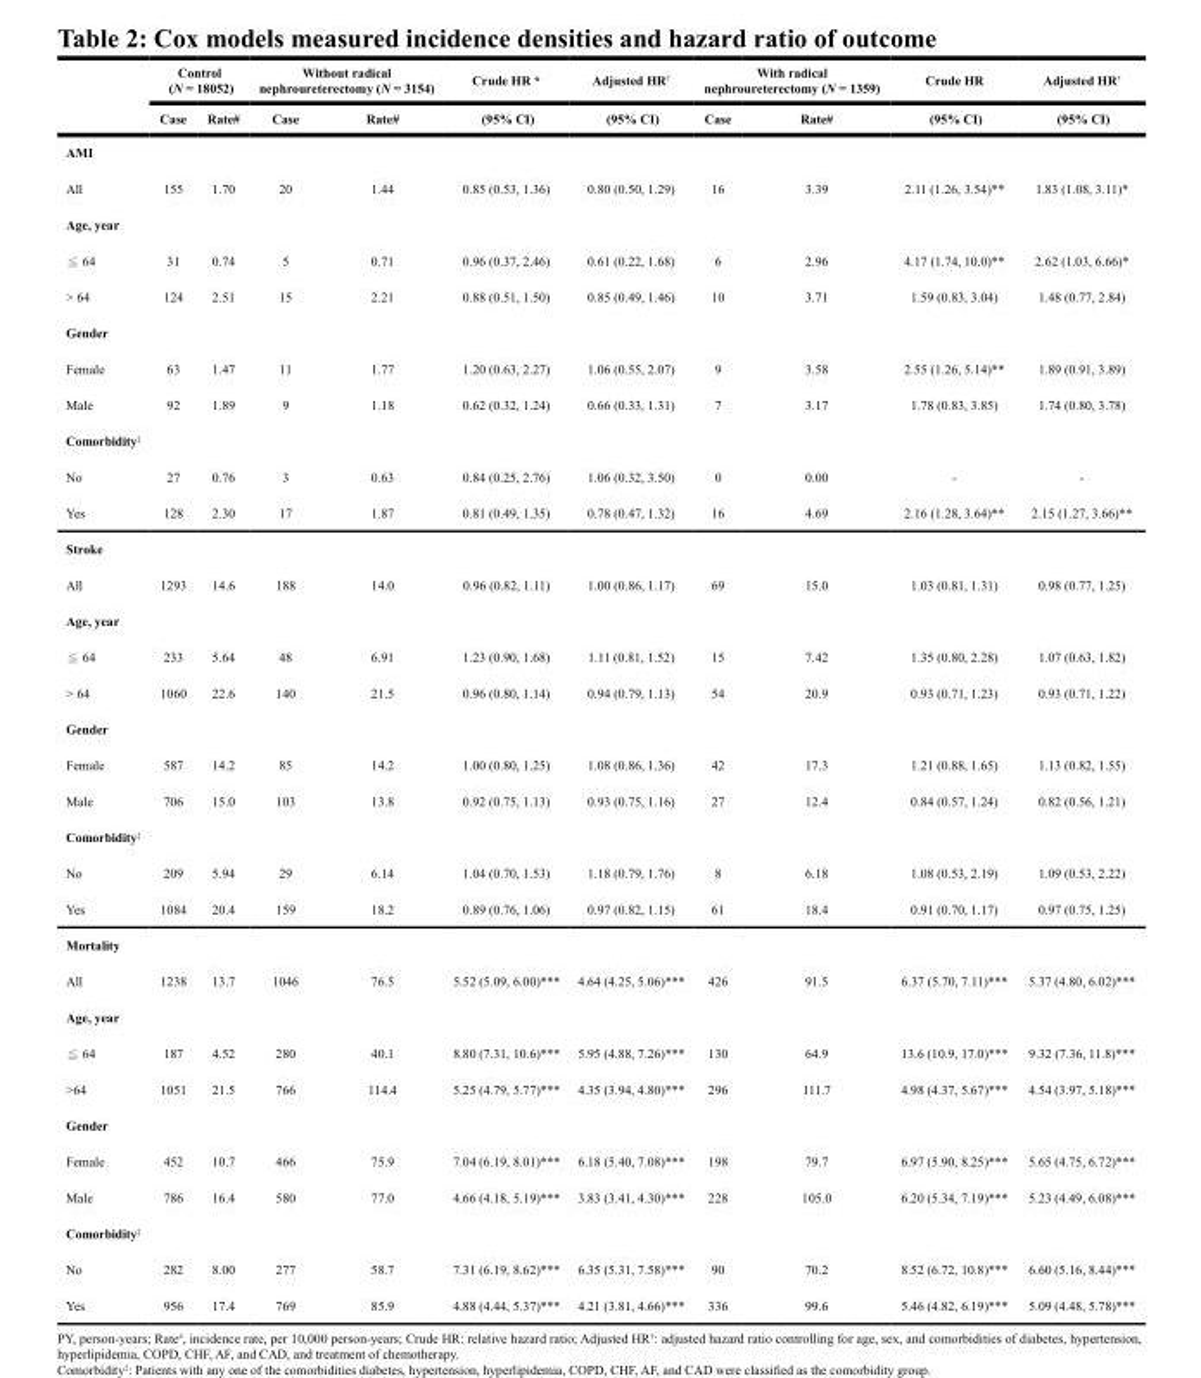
<table><thead><tr><td rowspan="2"></td><td colspan="2">Control (N = 18052)</td><td colspan="2">Without radical nephroureterectomy (N = 3154)</td><td rowspan="2">Crude HR * (95% CI)</td><td rowspan="2">Adjusted HR<sup>†</sup> (95% CI)</td><td colspan="2">With radical nephroureterectomy (N = 1359)</td><td rowspan="2">Crude HR (95% CI)</td><td rowspan="2">Adjusted HR<sup>†</sup> (95% CI)</td></tr><tr><td>Case</td><td>Rate#</td><td>Case</td><td>Rate#</td><td>Case</td><td>Rate#</td></tr></thead><tbody><tr><td colspan="11">AMI</td></tr><tr><td>All</td><td>155</td><td>1.70</td><td>20</td><td>1.44</td><td>0.85 (0.53, 1.36)</td><td>0.80 (0.50, 1.29)</td><td>16</td><td>3.39</td><td>2.11 (1.26, 3.54)**</td><td>1.83 (1.08, 3.11)*</td></tr><tr><td colspan="11">Age, year</td></tr><tr><td>≦ 64</td><td>31</td><td>0.74</td><td>5</td><td>0.71</td><td>0.96 (0.37, 2.46)</td><td>0.61 (0.22, 1.68)</td><td>6</td><td>2.96</td><td>4.17 (1.74, 10.0)**</td><td>2.62 (1.03, 6.66)*</td></tr><tr><td>&gt; 64</td><td>124</td><td>2.51</td><td>15</td><td>2.21</td><td>0.88 (0.51, 1.50)</td><td>0.85 (0.49, 1.46)</td><td>10</td><td>3.71</td><td>1.59 (0.83, 3.04)</td><td>1.48 (0.77, 2.84)</td></tr><tr><td colspan="11">Gender</td></tr><tr><td>Female</td><td>63</td><td>1.47</td><td>11</td><td>1.77</td><td>1.20 (0.63, 2.27)</td><td>1.06 (0.55, 2.07)</td><td>9</td><td>3.58</td><td>2.55 (1.26, 5.14)**</td><td>1.89 (0.91, 3.89)</td></tr><tr><td>Male</td><td>92</td><td>1.89</td><td>9</td><td>1.18</td><td>0.62 (0.32, 1.24)</td><td>0.66 (0.33, 1.31)</td><td>7</td><td>3.17</td><td>1.78 (0.83, 3.85)</td><td>1.74 (0.80, 3.78)</td></tr><tr><td colspan="11">Comorbidity<sup>‡</sup></td></tr><tr><td>No</td><td>27</td><td>0.76</td><td>3</td><td>0.63</td><td>0.84 (0.25, 2.76)</td><td>1.06 (0.32, 3.50)</td><td>0</td><td>0.00</td><td>-</td><td>-</td></tr><tr><td>Yes</td><td>128</td><td>2.30</td><td>17</td><td>1.87</td><td>0.81 (0.49, 1.35)</td><td>0.78 (0.47, 1.32)</td><td>16</td><td>4.69</td><td>2.16 (1.28, 3.64)**</td><td>2.15 (1.27, 3.66)**</td></tr><tr><td colspan="11">Stroke</td></tr><tr><td>All</td><td>1293</td><td>14.6</td><td>188</td><td>14.0</td><td>0.96 (0.82, 1.11)</td><td>1.00 (0.86, 1.17)</td><td>69</td><td>15.0</td><td>1.03 (0.81, 1.31)</td><td>0.98 (0.77, 1.25)</td></tr><tr><td colspan="11">Age, year</td></tr><tr><td>≦ 64</td><td>233</td><td>5.64</td><td>48</td><td>6.91</td><td>1.23 (0.90, 1.68)</td><td>1.11 (0.81, 1.52)</td><td>15</td><td>7.42</td><td>1.35 (0.80, 2.28)</td><td>1.07 (0.63, 1.82)</td></tr><tr><td>&gt; 64</td><td>1060</td><td>22.6</td><td>140</td><td>21.5</td><td>0.96 (0.80, 1.14)</td><td>0.94 (0.79, 1.13)</td><td>54</td><td>20.9</td><td>0.93 (0.71, 1.23)</td><td>0.93 (0.71, 1.22)</td></tr><tr><td colspan="11">Gender</td></tr><tr><td>Female</td><td>587</td><td>14.2</td><td>85</td><td>14.2</td><td>1.00 (0.80, 1.25)</td><td>1.08 (0.86, 1.36)</td><td>42</td><td>17.3</td><td>1.21 (0.88, 1.65)</td><td>1.13 (0.82, 1.55)</td></tr><tr><td>Male</td><td>706</td><td>15.0</td><td>103</td><td>13.8</td><td>0.92 (0.75, 1.13)</td><td>0.93 (0.75, 1.16)</td><td>27</td><td>12.4</td><td>0.84 (0.57, 1.24)</td><td>0.82 (0.56, 1.21)</td></tr><tr><td colspan="11">Comorbidity<sup>‡</sup></td></tr><tr><td>No</td><td>209</td><td>5.94</td><td>29</td><td>6.14</td><td>1.04 (0.70, 1.53)</td><td>1.18 (0.79, 1.76)</td><td>8</td><td>6.18</td><td>1.08 (0.53, 2.19)</td><td>1.09 (0.53, 2.22)</td></tr><tr><td>Yes</td><td>1084</td><td>20.4</td><td>159</td><td>18.2</td><td>0.89 (0.76, 1.06)</td><td>0.97 (0.82, 1.15)</td><td>61</td><td>18.4</td><td>0.91 (0.70, 1.17)</td><td>0.97 (0.75, 1.25)</td></tr><tr><td colspan="11">Mortality</td></tr><tr><td>All</td><td>1238</td><td>13.7</td><td>1046</td><td>76.5</td><td>5.52 (5.09, 6.00)***</td><td>4.64 (4.25, 5.06)***</td><td>426</td><td>91.5</td><td>6.37 (5.70, 7.11)***</td><td>5.37 (4.80, 6.02)***</td></tr><tr><td colspan="11">Age, year</td></tr><tr><td>≦ 64</td><td>187</td><td>4.52</td><td>280</td><td>40.1</td><td>8.80 (7.31, 10.6)***</td><td>5.95 (4.88, 7.26)***</td><td>130</td><td>64.9</td><td>13.6 (10.9, 17.0)***</td><td>9.32 (7.36, 11.8)***</td></tr><tr><td>&gt;64</td><td>1051</td><td>21.5</td><td>766</td><td>114.4</td><td>5.25 (4.79, 5.77)***</td><td>4.35 (3.94, 4.80)***</td><td>296</td><td>111.7</td><td>4.98 (4.37, 5.67)***</td><td>4.54 (3.97, 5.18)***</td></tr><tr><td colspan="11">Gender</td></tr><tr><td>Female</td><td>452</td><td>10.7</td><td>466</td><td>75.9</td><td>7.04 (6.19, 8.01)***</td><td>6.18 (5.40, 7.08)***</td><td>198</td><td>79.7</td><td>6.97 (5.90, 8.25)***</td><td>5.65 (4.75, 6.72)***</td></tr><tr><td>Male</td><td>786</td><td>16.4</td><td>580</td><td>77.0</td><td>4.66 (4.18, 5.19)***</td><td>3.83 (3.41, 4.30)***</td><td>228</td><td>105.0</td><td>6.20 (5.34, 7.19)***</td><td>5.23 (4.49, 6.08)***</td></tr><tr><td colspan="11">Comorbidity<sup>‡</sup></td></tr><tr><td>No</td><td>282</td><td>8.00</td><td>277</td><td>58.7</td><td>7.31 (6.19, 8.62)***</td><td>6.35 (5.31, 7.58)***</td><td>90</td><td>70.2</td><td>8.52 (6.72, 10.8)***</td><td>6.60 (5.16, 8.44)***</td></tr><tr><td>Yes</td><td>956</td><td>17.4</td><td>769</td><td>85.9</td><td>4.88 (4.44, 5.37)***</td><td>4.21 (3.81, 4.66)***</td><td>336</td><td>99.6</td><td>5.46 (4.82, 6.19)***</td><td>5.09 (4.48, 5.78)***</td></tr></tbody></table>